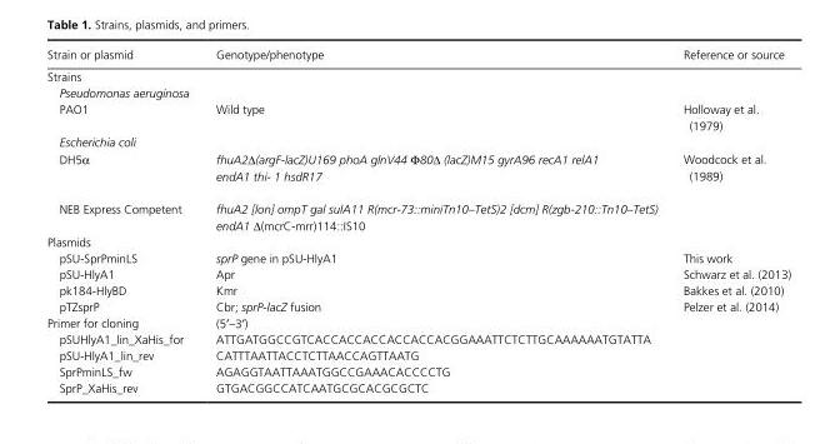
<table><thead><tr><td>Strain or plasmid</td><td>Genotype/phenotype</td><td>Reference or source</td></tr></thead><tbody><tr><td colspan="3">Strains</td></tr><tr><td colspan="3">Pseudomonas aeruginosa</td></tr><tr><td>PAO1</td><td>Wild type</td><td>Holloway et al. (1979)</td></tr><tr><td colspan="3">Escherichia coli</td></tr><tr><td>DH5α</td><td>fhuA2Δ(argF-lacZ)U169 phoA glnV44 Φ80Δ (lacZ)M15 gyrA96 recA1 relA1 endA1 thi- 1 hsdR17</td><td>Woodcock et al. (1989)</td></tr><tr><td>NEB Express Competent</td><td>fhuA2 [lon] ompT gal sulA11 R(mcr-73::miniTn10–TetS)2 [dcm] R(zgb-210::Tn10–TetS) endA1 Δ(mcrC- mrr)114::IS10</td><td></td></tr><tr><td colspan="3">Plasmids</td></tr><tr><td>pSU- SprPminLS</td><td>sprP gene in pSU- HlyA1</td><td>This work</td></tr><tr><td>pSU- HlyA1</td><td>Apr</td><td>Schwarz et al. (2013)</td></tr><tr><td>pk184- HlyBD</td><td>Kmr</td><td>Bakkes et al. (2010)</td></tr><tr><td>pTZsprP</td><td>Cbr; sprP-lacZ fusion</td><td>Pelzer et al. (2014)</td></tr><tr><td>Primer for cloning</td><td>(5′–3′)</td><td></td></tr><tr><td>pSUHlyA1_lin_XaHis_for</td><td>ATTGATGGCCGTCACCACCACCACCACCACGGAAATTCTCTTGCAAAAAATGTATTA</td><td></td></tr><tr><td>pSU- HlyA1_lin_rev</td><td>CATTTAATTACCTCTTAACCAGTTAATG</td><td></td></tr><tr><td>SprPminLS_fw</td><td>AGAGGTAATTAAATGGCCGAAACACCCCTG</td><td></td></tr><tr><td>SprP_XaHis_rev</td><td>GTGACGGCCATCAATGCGCACGCGCTC</td><td></td></tr></tbody></table>